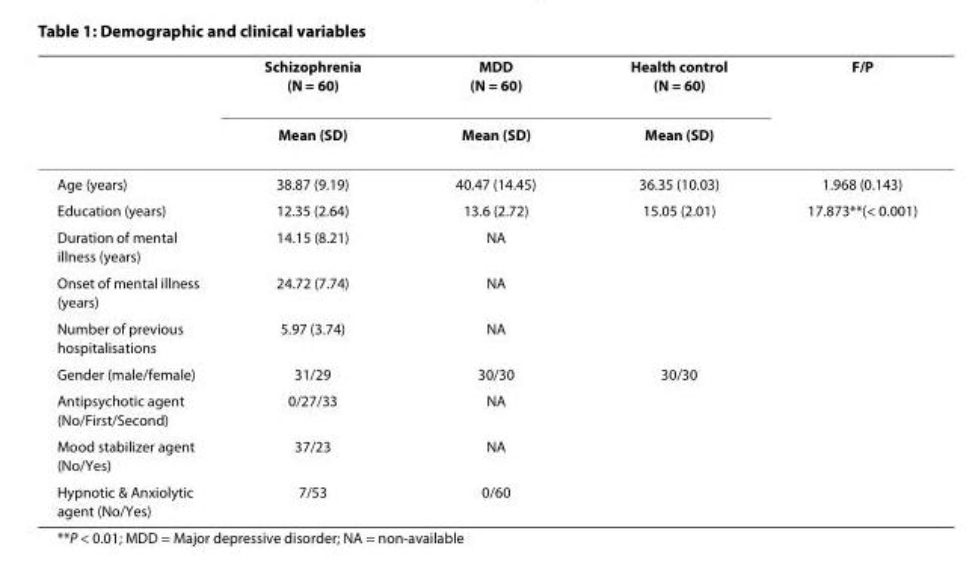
<table><thead><tr><td rowspan="2"></td><td rowspan="2">Schizophrenia (N = 60) Mean (SD)</td><td rowspan="2">MDD (N = 60) Mean (SD)</td><td rowspan="2">Health control (N = 60) Mean (SD)</td><td rowspan="2">F/P</td></tr><tr></tr></thead><tbody><tr><td>Age (years)</td><td>38.87 (9.19)</td><td>40.47 (14.45)</td><td>36.35 (10.03)</td><td>1.968 (0.143)</td></tr><tr><td>Education (years)</td><td>12.35 (2.64)</td><td>13.6 (2.72)</td><td>15.05 (2.01)</td><td>17.873**(&lt; 0.001)</td></tr><tr><td>Duration of mental illness (years)</td><td>14.15 (8.21)</td><td>NA</td><td></td><td></td></tr><tr><td>Onset of mental illness (years)</td><td>24.72 (7.74)</td><td>NA</td><td></td><td></td></tr><tr><td>Number of previous hospitalisations</td><td>5.97 (3.74)</td><td>NA</td><td></td><td></td></tr><tr><td>Gender (male/female)</td><td>31/29</td><td>30/30</td><td>30/30</td><td></td></tr><tr><td>Antipsychotic agent (No/First/Second)</td><td>0/27/33</td><td>NA</td><td></td><td></td></tr><tr><td>Mood stabilizer agent (No/Yes)</td><td>37/23</td><td>NA</td><td></td><td></td></tr><tr><td>Hypnotic &amp; Anxiolytic agent (No/Yes)</td><td>7/53</td><td>0/60</td><td></td><td></td></tr></tbody></table>